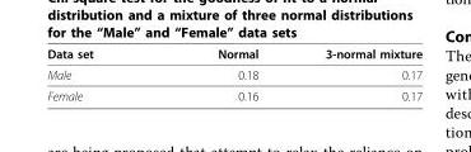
<table><thead><tr><td>Data set</td><td>Normal</td><td>3-normal mixture</td></tr></thead><tbody><tr><td>Male</td><td>0.18</td><td>0.17</td></tr><tr><td>Female</td><td>0.16</td><td>0.17</td></tr></tbody></table>